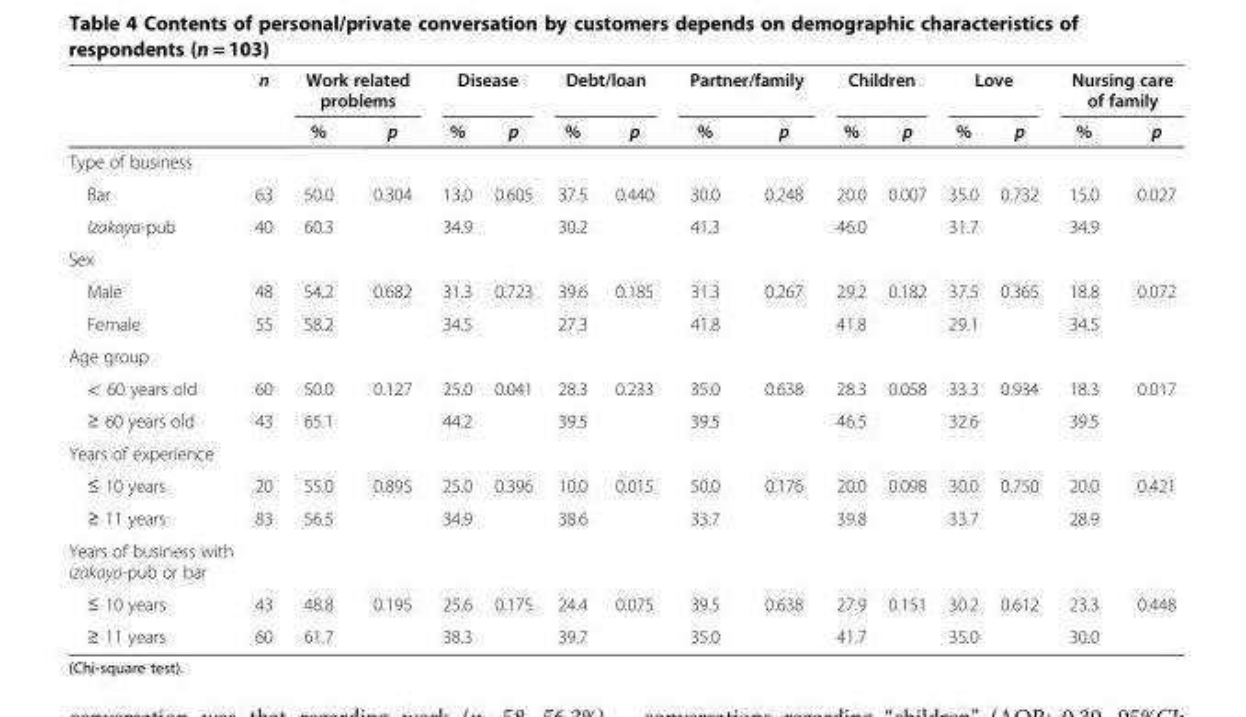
<table><thead><tr><td rowspan="2"></td><td rowspan="2">n</td><td colspan="2">Work related problems</td><td colspan="2">Disease</td><td colspan="2">Debt/loan</td><td colspan="2">Partner/family</td><td colspan="2">Children</td><td colspan="2">Love</td><td colspan="2">Nursing care of family</td></tr><tr><td>%</td><td>p</td><td>%</td><td>p</td><td>%</td><td>p</td><td>%</td><td>p</td><td>%</td><td>p</td><td>%</td><td>p</td><td>%</td><td>p</td></tr></thead><tbody><tr><td colspan="16">Type of business</td></tr><tr><td>Bar</td><td>63</td><td>50.0</td><td>0.304</td><td>13.0</td><td>0.605</td><td>37.5</td><td>0.440</td><td>30.0</td><td>0.248</td><td>20.0</td><td>0.007</td><td>35.0</td><td>0.732</td><td>15.0</td><td>0.027</td></tr><tr><td>Izakaya-pub</td><td>40</td><td>60.3</td><td></td><td>34.9</td><td></td><td>30.2</td><td></td><td>41.3</td><td></td><td>46.0</td><td></td><td>31.7</td><td></td><td>34.9</td><td></td></tr><tr><td colspan="16">Sex</td></tr><tr><td>Male</td><td>48</td><td>54.2</td><td>0.682</td><td>31.3</td><td>0.723</td><td>39.6</td><td>0.185</td><td>31.3</td><td>0.267</td><td>29.2</td><td>0.182</td><td>37.5</td><td>0.365</td><td>18.8</td><td>0.072</td></tr><tr><td>Female</td><td>55</td><td>58.2</td><td></td><td>34.5</td><td></td><td>27.3</td><td></td><td>41.8</td><td></td><td>41.8</td><td></td><td>29.1</td><td></td><td>34.5</td><td></td></tr><tr><td colspan="16">Age group</td></tr><tr><td>&lt; 60 years old</td><td>60</td><td>50.0</td><td>0.127</td><td>25.0</td><td>0.041</td><td>28.3</td><td>0.233</td><td>35.0</td><td>0.638</td><td>28.3</td><td>0.058</td><td>33.3</td><td>0.934</td><td>18.3</td><td>0.017</td></tr><tr><td>≥ 60 years old</td><td>43</td><td>65.1</td><td></td><td>44.2</td><td></td><td>39.5</td><td></td><td>39.5</td><td></td><td>46.5</td><td></td><td>32.6</td><td></td><td>39.5</td><td></td></tr><tr><td colspan="16">Years of experience</td></tr><tr><td>≤ 10 years</td><td>20</td><td>55.0</td><td>0.895</td><td>25.0</td><td>0.396</td><td>10.0</td><td>0.015</td><td>50.0</td><td>0.176</td><td>20.0</td><td>0.098</td><td>30.0</td><td>0.750</td><td>20.0</td><td>0.421</td></tr><tr><td>≥ 11 years</td><td>83</td><td>56.5</td><td></td><td>34.9</td><td></td><td>38.6</td><td></td><td>33.7</td><td></td><td>39.8</td><td></td><td>33.7</td><td></td><td>28.9</td><td></td></tr><tr><td colspan="16">Years of business with izakaya-pub or bar</td></tr><tr><td>≤ 10 years</td><td>43</td><td>48.8</td><td>0.195</td><td>25.6</td><td>0.175</td><td>24.4</td><td>0.075</td><td>39.5</td><td>0.638</td><td>27.9</td><td>0.151</td><td>30.2</td><td>0.612</td><td>23.3</td><td>0.448</td></tr><tr><td>≥ 11 years</td><td>60</td><td>61.7</td><td></td><td>38.3</td><td></td><td>39.7</td><td></td><td>35.0</td><td></td><td>41.7</td><td></td><td>35.0</td><td></td><td>30.0</td><td></td></tr></tbody></table>